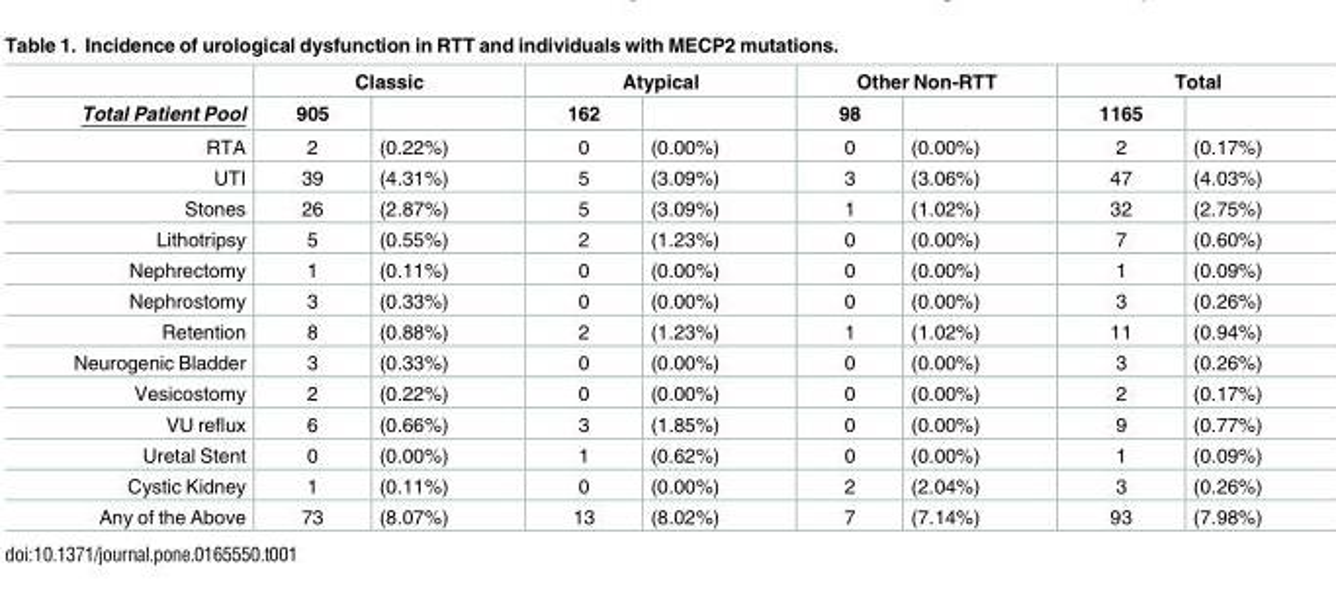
<table><thead><tr><td rowspan="2">Total Patient Pool</td><td colspan="2">Classic</td><td colspan="2">Atypical</td><td colspan="2">Other Non-RTT</td><td colspan="2">Total</td></tr><tr><td>905</td><td></td><td>162</td><td></td><td>98</td><td></td><td>1165</td><td></td></tr></thead><tbody><tr><td>RTA</td><td>2</td><td>(0.22%)</td><td>0</td><td>(0.00%)</td><td>0</td><td>(0.00%)</td><td>2</td><td>(0.17%)</td></tr><tr><td>UTI</td><td>39</td><td>(4.31%)</td><td>5</td><td>(3.09%)</td><td>3</td><td>(3.06%)</td><td>47</td><td>(4.03%)</td></tr><tr><td>Stones</td><td>26</td><td>(2.87%)</td><td>5</td><td>(3.09%)</td><td>1</td><td>(1.02%)</td><td>32</td><td>(2.75%)</td></tr><tr><td>Lithotripsy</td><td>5</td><td>(0.55%)</td><td>2</td><td>(1.23%)</td><td>0</td><td>(0.00%)</td><td>7</td><td>(0.60%)</td></tr><tr><td>Nephrectomy</td><td>1</td><td>(0.11%)</td><td>0</td><td>(0.00%)</td><td>0</td><td>(0.00%)</td><td>1</td><td>(0.09%)</td></tr><tr><td>Nephrostomy</td><td>3</td><td>(0.33%)</td><td>0</td><td>(0.00%)</td><td>0</td><td>(0.00%)</td><td>3</td><td>(0.26%)</td></tr><tr><td>Retention</td><td>8</td><td>(0.88%)</td><td>2</td><td>(1.23%)</td><td>1</td><td>(1.02%)</td><td>11</td><td>(0.94%)</td></tr><tr><td>Neurogenic Bladder</td><td>3</td><td>(0.33%)</td><td>0</td><td>(0.00%)</td><td>0</td><td>(0.00%)</td><td>3</td><td>(0.26%)</td></tr><tr><td>Vesicostomy</td><td>2</td><td>(0.22%)</td><td>0</td><td>(0.00%)</td><td>0</td><td>(0.00%)</td><td>2</td><td>(0.17%)</td></tr><tr><td>VU reflux</td><td>6</td><td>(0.66%)</td><td>3</td><td>(1.85%)</td><td>0</td><td>(0.00%)</td><td>9</td><td>(0.77%)</td></tr><tr><td>Uretal Stent</td><td>0</td><td>(0.00%)</td><td>1</td><td>(0.62%)</td><td>0</td><td>(0.00%)</td><td>1</td><td>(0.09%)</td></tr><tr><td>Cystic Kidney</td><td>1</td><td>(0.11%)</td><td>0</td><td>(0.00%)</td><td>2</td><td>(2.04%)</td><td>3</td><td>(0.26%)</td></tr><tr><td>Any of the Above</td><td>73</td><td>(8.07%)</td><td>13</td><td>(8.02%)</td><td>7</td><td>(7.14%)</td><td>93</td><td>(7.98%)</td></tr></tbody></table>